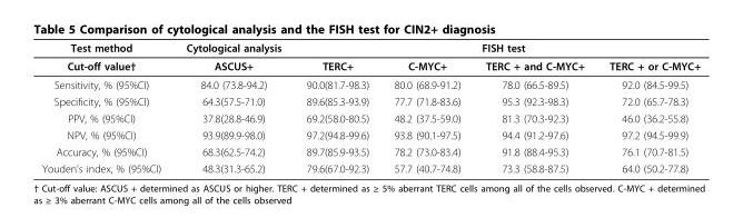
<table><thead><tr><td rowspan="2">Test method Cut-off value†</td><td rowspan="2">Cytological analysis ASCUS+</td><td colspan="4">FISH test</td></tr><tr><td>TERC+</td><td>C-MYC+</td><td>TERC + and C-MYC+</td><td>TERC + or C-MYC+</td></tr></thead><tbody><tr><td>Sensitivity, % (95%CI)</td><td>84.0 (73.8-94.2)</td><td>90.0(81.7-98.3)</td><td>80.0 (68.9-91.2)</td><td>78.0 (66.5-89.5)</td><td>92.0 (84.5-99.5)</td></tr><tr><td>Specificity, % (95%CI)</td><td>64.3(57.5-71.0)</td><td>89.6(85.3-93.9)</td><td>77.7 (71.8-83.6)</td><td>95.3 (92.3-98.3)</td><td>72.0 (65.7-78.3)</td></tr><tr><td>PPV, % (95%CI)</td><td>37.8(28.8-46.9)</td><td>69.2(58.0-80.5)</td><td>48.2 (37.5-59.0)</td><td>81.3 (70.3-92.3)</td><td>46.0 (36.2-55.8)</td></tr><tr><td>NPV, % (95%CI)</td><td>93.9(89.9-98.0)</td><td>97.2(94.8-99.6)</td><td>93.8 (90.1-97.5)</td><td>94.4 (91.2-97.6)</td><td>97.2 (94.5-99.9)</td></tr><tr><td>Accuracy, % (95%CI)</td><td>68.3(62.5-74.2)</td><td>89.7(85.9-93.5)</td><td>78.2 (73.0-83.4)</td><td>91.8 (88.4-95.3)</td><td>76.1 (70.7-81.5)</td></tr><tr><td>Youden’s index, % (95%CI)</td><td>48.3(31.3-65.2)</td><td>79.6(67.0-92.3)</td><td>57.7 (40.7-74.8)</td><td>73.3 (58.8-87.5)</td><td>64.0 (50.2-77.8)</td></tr></tbody></table>